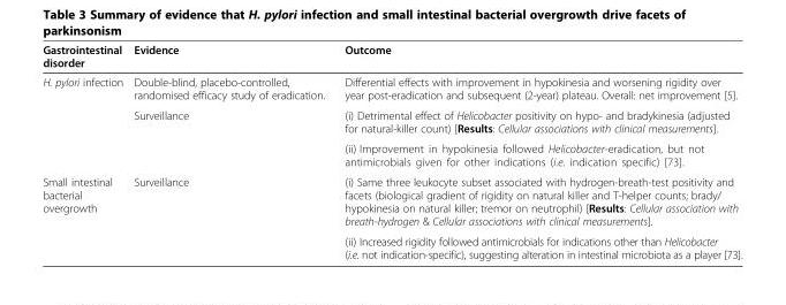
<table><thead><tr><td>Gastrointestinal disorder</td><td>Evidence</td><td>Outcome</td></tr></thead><tbody><tr><td rowspan="3">H. pylori infection</td><td>Double-blind, placebo-controlled, randomised efficacy study of eradication.</td><td>Differential effects with improvement in hypokinesia and worsening rigidity over year post-eradication and subsequent (2-year) plateau. Overall: net improvement [5].</td></tr><tr><td rowspan="2">Surveillance</td><td>(i) Detrimental effect of Helicobacter positivity on hypo- and bradykinesia (adjusted for natural-killer count) [Results: Cellular associations with clinical measurements].</td></tr><tr><td>(ii) Improvement in hypokinesia followed Helicobacter-eradication, but not antimicrobials given for other indications (i.e. indication specific) [73].</td></tr><tr><td rowspan="2">Small intestinal bacterial overgrowth</td><td>Surveillance</td><td>(i) Same three leukocyte subset associated with hydrogen-breath-test positivity and facets (biological gradient of rigidity on natural killer and T-helper counts; brady/ hypokinesia on natural killer; tremor on neutrophil) [Results: Cellular association with breath-hydrogen &amp; Cellular associations with clinical measurements].</td></tr><tr><td></td><td>(ii) Increased rigidity followed antimicrobials for indications other than Helicobacter (i.e. not indication-specific), suggesting alteration in intestinal microbiota as a player [73].</td></tr></tbody></table>